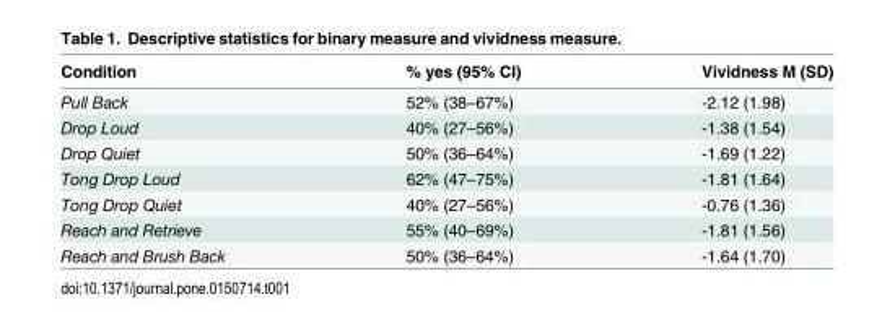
<table><thead><tr><td>Condition</td><td>% yes (95% CI)</td><td>Vividness M (SD)</td></tr></thead><tbody><tr><td>Pull Back</td><td>52% (38–67%)</td><td>-2.12 (1.98)</td></tr><tr><td>Drop Loud</td><td>40% (27–56%)</td><td>-1.38 (1.54)</td></tr><tr><td>Drop Quiet</td><td>50% (36–64%)</td><td>-1.69 (1.22)</td></tr><tr><td>Tong Drop Loud</td><td>62% (47–75%)</td><td>-1.81 (1.64)</td></tr><tr><td>Tong Drop Quiet</td><td>40% (27–56%)</td><td>-0.76 (1.36)</td></tr><tr><td>Reach and Retrieve</td><td>55% (40–69%)</td><td>-1.81 (1.56)</td></tr><tr><td>Reach and Brush Back</td><td>50% (36–64%)</td><td>-1.64 (1.70)</td></tr></tbody></table>